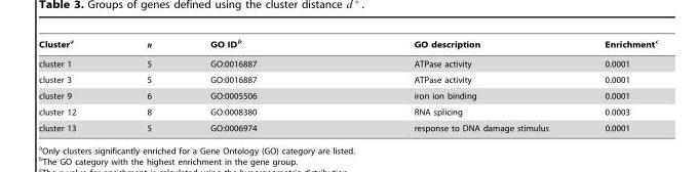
<table><thead><tr><td>Cluster<sup>a</sup></td><td>n</td><td>GO ID<sup>b</sup></td><td>GO description</td><td>Enrichment<sup>c</sup></td></tr></thead><tbody><tr><td>cluster 1</td><td>5</td><td>GO:0016887</td><td>ATPase activity</td><td>0.0001</td></tr><tr><td>cluster 3</td><td>5</td><td>GO:0016887</td><td>ATPase activity</td><td>0.0001</td></tr><tr><td>cluster 9</td><td>6</td><td>GO:0005506</td><td>iron ion binding</td><td>0.0001</td></tr><tr><td>cluster 12</td><td>8</td><td>GO:0008380</td><td>RNA splicing</td><td>0.0003</td></tr><tr><td>cluster 13</td><td>5</td><td>GO:0006974</td><td>response to DNA damage stimulus</td><td>0.0001</td></tr></tbody></table>